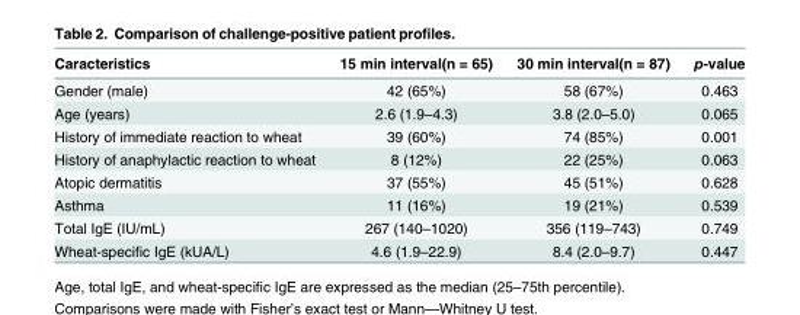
<table><thead><tr><td>Caracteristics</td><td>15 min interval(n = 65)</td><td>30 min interval(n = 87)</td><td>p-value</td></tr></thead><tbody><tr><td>Gender (male)</td><td>42 (65%)</td><td>58 (67%)</td><td>0.463</td></tr><tr><td>Age (years)</td><td>2.6 (1.9–4.3)</td><td>3.8 (2.0–5.0)</td><td>0.065</td></tr><tr><td>History of immediate reaction to wheat</td><td>39 (60%)</td><td>74 (85%)</td><td>0.001</td></tr><tr><td>History of anaphylactic reaction to wheat</td><td>8 (12%)</td><td>22 (25%)</td><td>0.063</td></tr><tr><td>Atopic dermatitis</td><td>37 (55%)</td><td>45 (51%)</td><td>0.628</td></tr><tr><td>Asthma</td><td>11 (16%)</td><td>19 (21%)</td><td>0.539</td></tr><tr><td>Total IgE (IU/mL)</td><td>267 (140–1020)</td><td>356 (119–743)</td><td>0.749</td></tr><tr><td>Wheat-specific IgE (kUA/L)</td><td>4.6 (1.9–22.9)</td><td>8.4 (2.0–9.7)</td><td>0.447</td></tr></tbody></table>